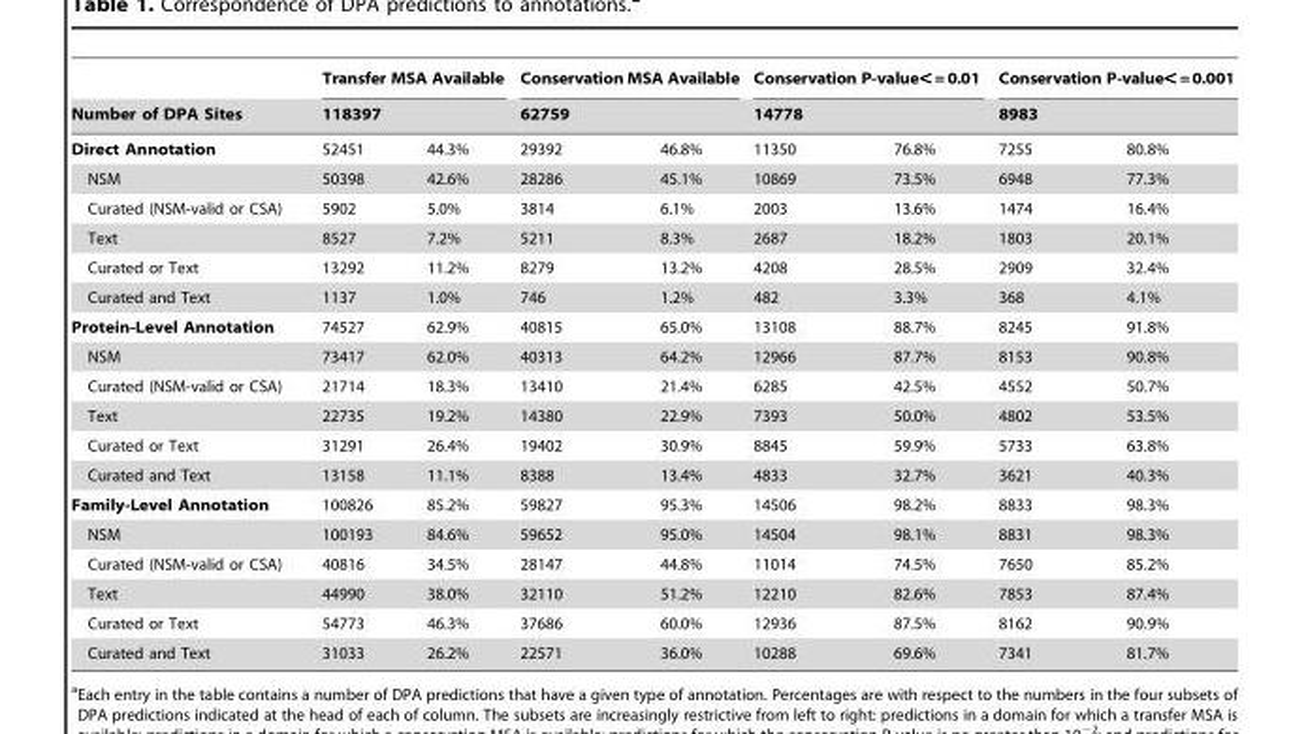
<table><thead><tr><td rowspan="3">Number of DPA Sites Direct Annotation</td><td rowspan="2" colspan="2">Transfer MSA Available 118397</td><td rowspan="2" colspan="2">Conservation MSA Available 62759</td><td rowspan="2" colspan="2">Conservation P-value&lt; =0.01 14778</td><td rowspan="2" colspan="2">Conservation P-value&lt; =0.001 8983</td></tr><tr></tr><tr><td>52451</td><td>44.3%</td><td>29392</td><td>46.8%</td><td>11350</td><td>76.8%</td><td>7255</td><td>80.8%</td></tr></thead><tbody><tr><td>NSM</td><td>50398</td><td>42.6%</td><td>28286</td><td>45.1%</td><td>10869</td><td>73.5%</td><td>6948</td><td>77.3%</td></tr><tr><td>Curated (NSM-valid or CSA)</td><td>5902</td><td>5.0%</td><td>3814</td><td>6.1%</td><td>2003</td><td>13.6%</td><td>1474</td><td>16.4%</td></tr><tr><td>Text</td><td>8527</td><td>7.2%</td><td>5211</td><td>8.3%</td><td>2687</td><td>18.2%</td><td>1803</td><td>20.1%</td></tr><tr><td>Curated or Text</td><td>13292</td><td>11.2%</td><td>8279</td><td>13.2%</td><td>4208</td><td>28.5%</td><td>2909</td><td>32.4%</td></tr><tr><td>Curated and Text</td><td>1137</td><td>1.0%</td><td>746</td><td>1.2%</td><td>482</td><td>3.3%</td><td>368</td><td>4.1%</td></tr><tr><td>Protein-Level Annotation</td><td>74527</td><td>62.9%</td><td>40815</td><td>65.0%</td><td>13108</td><td>88.7%</td><td>8245</td><td>91.8%</td></tr><tr><td>NSM</td><td>73417</td><td>62.0%</td><td>40313</td><td>64.2%</td><td>12966</td><td>87.7%</td><td>8153</td><td>90.8%</td></tr><tr><td>Curated (NSM-valid or CSA)</td><td>21714</td><td>18.3%</td><td>13410</td><td>21.4%</td><td>6285</td><td>42.5%</td><td>4552</td><td>50.7%</td></tr><tr><td>Text</td><td>22735</td><td>19.2%</td><td>14380</td><td>22.9%</td><td>7393</td><td>50.0%</td><td>4802</td><td>53.5%</td></tr><tr><td>Curated or Text</td><td>31291</td><td>26.4%</td><td>19402</td><td>30.9%</td><td>8845</td><td>59.9%</td><td>5733</td><td>63.8%</td></tr><tr><td>Curated and Text</td><td>13158</td><td>11.1%</td><td>8388</td><td>13.4%</td><td>4833</td><td>32.7%</td><td>3621</td><td>40.3%</td></tr><tr><td>Family-Level Annotation</td><td>100826</td><td>85.2%</td><td>59827</td><td>95.3%</td><td>14506</td><td>98.2%</td><td>8833</td><td>98.3%</td></tr><tr><td>NSM</td><td>100193</td><td>84.6%</td><td>59652</td><td>95.0%</td><td>14504</td><td>98.1%</td><td>8831</td><td>98.3%</td></tr><tr><td>Curated (NSM-valid or CSA)</td><td>40816</td><td>34.5%</td><td>28147</td><td>44.8%</td><td>11014</td><td>74.5%</td><td>7650</td><td>85.2%</td></tr><tr><td>Text</td><td>44990</td><td>38.0%</td><td>32110</td><td>51.2%</td><td>12210</td><td>82.6%</td><td>7853</td><td>87.4%</td></tr><tr><td>Curated or Text</td><td>54773</td><td>46.3%</td><td>37686</td><td>60.0%</td><td>12936</td><td>87.5%</td><td>8162</td><td>90.9%</td></tr><tr><td>Curated and Text</td><td>31033</td><td>26.2%</td><td>22571</td><td>36.0%</td><td>10288</td><td>69.6%</td><td>7341</td><td>81.7%</td></tr></tbody></table>